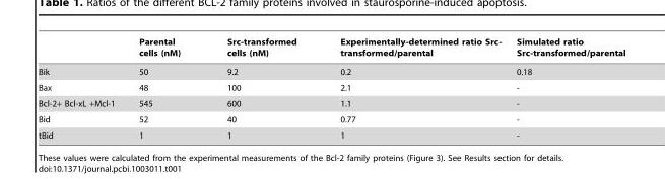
<table><thead><tr><td></td><td>Parental cells (nM)</td><td>Src-transformed cells (nM)</td><td>Experimentally-determined ratio Src- transformed/parental</td><td>Simulated ratio Src-transformed/parental</td></tr></thead><tbody><tr><td>Bik</td><td>50</td><td>9.2</td><td>0.2</td><td>0.18</td></tr><tr><td>Bax</td><td>48</td><td>100</td><td>2.1</td><td>-</td></tr><tr><td>Bcl-2+ Bcl-xL +Mcl-1</td><td>545</td><td>600</td><td>1.1</td><td>-</td></tr><tr><td>Bid</td><td>52</td><td>40</td><td>0.77</td><td>-</td></tr><tr><td>tBid</td><td>1</td><td>1</td><td>1</td><td>-</td></tr></tbody></table>